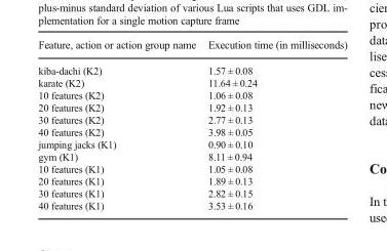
<table><thead><tr><td>Feature, action or action group name</td><td>Execution time (in milliseconds)</td></tr></thead><tbody><tr><td>kiba-dachi (K2)</td><td>1.57 ± 0.08</td></tr><tr><td>karate (K2)</td><td>11.64 ± 0.24</td></tr><tr><td>10 features (K2)</td><td>1.06 ± 0.08</td></tr><tr><td>20 features (K2)</td><td>1.92 ± 0.13</td></tr><tr><td>30 features (K2)</td><td>2.77 ± 0.13</td></tr><tr><td>40 features (K2)</td><td>3.98 ± 0.05</td></tr><tr><td>jumping jacks (K1)</td><td>0.90 ± 0.10</td></tr><tr><td>gym (K1)</td><td>8.11 ± 0.94</td></tr><tr><td>10 features (K1)</td><td>1.05 ± 0.08</td></tr><tr><td>20 features (K1)</td><td>1.89 ± 0.13</td></tr><tr><td>30 features (K1)</td><td>2.82 ± 0.15</td></tr><tr><td>40 features (K1)</td><td>3.53 ± 0.16</td></tr></tbody></table>